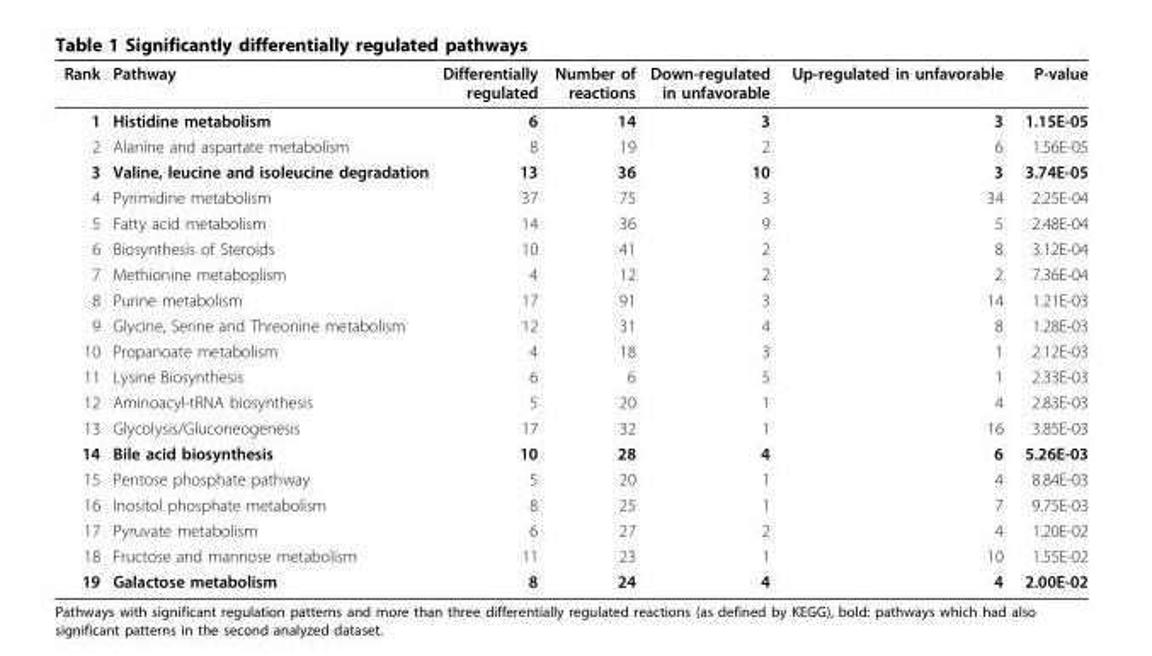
<table><thead><tr><td>Rank</td><td>Pathway</td><td>Differentially regulated</td><td>Number of reactions</td><td>Down-regulated in unfavorable</td><td>Up-regulated in unfavorable</td><td>P-value</td></tr></thead><tbody><tr><td>1</td><td>Histidine metabolism</td><td>6</td><td>14</td><td>3</td><td>3</td><td>1.15E-05</td></tr><tr><td>2</td><td>Alanine and aspartate metabolism</td><td>8</td><td>19</td><td>2</td><td>6</td><td>1.56E-05</td></tr><tr><td>3</td><td>Valine, leucine and isoleucine degradation</td><td>13</td><td>36</td><td>10</td><td>3</td><td>3.74E-05</td></tr><tr><td>4</td><td>Pyrimidine metabolism</td><td>37</td><td>75</td><td>3</td><td>34</td><td>2.25E-04</td></tr><tr><td>5</td><td>Fatty acid metabolism</td><td>14</td><td>36</td><td>9</td><td>5</td><td>2.48E-04</td></tr><tr><td>6</td><td>Biosynthesis of Steroids</td><td>10</td><td>41</td><td>2</td><td>8</td><td>3.12E-04</td></tr><tr><td>7</td><td>Methionine metaboplism</td><td>4</td><td>12</td><td>2</td><td>2</td><td>7.36E-04</td></tr><tr><td>8</td><td>Purine metabolism</td><td>17</td><td>91</td><td>3</td><td>14</td><td>1.21E-03</td></tr><tr><td>9</td><td>Glycine, Serine and Threonine metabolism</td><td>12</td><td>31</td><td>4</td><td>8</td><td>1.28E-03</td></tr><tr><td>10</td><td>Propanoate metabolism</td><td>4</td><td>18</td><td>3</td><td>1</td><td>2.12E-03</td></tr><tr><td>11</td><td>Lysine Biosynthesis</td><td>6</td><td>6</td><td>5</td><td>1</td><td>2.33E-03</td></tr><tr><td>12</td><td>Aminoacyl-tRNA biosynthesis</td><td>5</td><td>20</td><td>1</td><td>4</td><td>2.83E-03</td></tr><tr><td>13</td><td>Glycolysis/Gluconeogenesis</td><td>17</td><td>32</td><td>1</td><td>16</td><td>3.85E-03</td></tr><tr><td>14</td><td>Bile acid biosynthesis</td><td>10</td><td>28</td><td>4</td><td>6</td><td>5.26E-03</td></tr><tr><td>15</td><td>Pentose phosphate pathway</td><td>5</td><td>20</td><td>1</td><td>4</td><td>8.84E-03</td></tr><tr><td>16</td><td>Inositol phosphate metabolism</td><td>8</td><td>25</td><td>1</td><td>7</td><td>9.75E-03</td></tr><tr><td>17</td><td>Pyruvate metabolism</td><td>6</td><td>27</td><td>2</td><td>4</td><td>1.20E-02</td></tr><tr><td>18</td><td>Fructose and mannose metabolism</td><td>11</td><td>23</td><td>1</td><td>10</td><td>1.55E-02</td></tr><tr><td>19</td><td>Galactose metabolism</td><td>8</td><td>24</td><td>4</td><td>4</td><td>2.00E-02</td></tr></tbody></table>